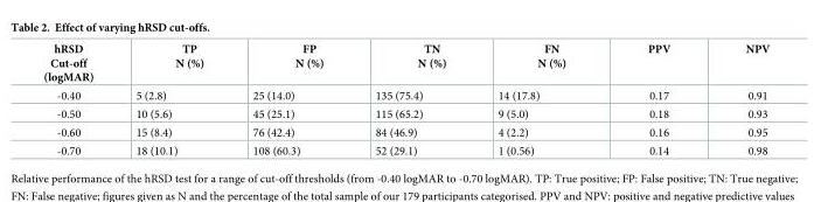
<table><thead><tr><td>hRSD Cut-off (logMAR)</td><td>TP N (%)</td><td>FP N (%)</td><td>TN N (%)</td><td>FN N (%)</td><td>PPV</td><td>NPV</td></tr></thead><tbody><tr><td>-0.40</td><td>5 (2.8)</td><td>25 (14.0)</td><td>135 (75.4)</td><td>14 (17.8)</td><td>0.17</td><td>0.91</td></tr><tr><td>-0.50</td><td>10 (5.6)</td><td>45 (25.1)</td><td>115 (65.2)</td><td>9 (5.0)</td><td>0.18</td><td>0.93</td></tr><tr><td>-0.60</td><td>15 (8.4)</td><td>76 (42.4)</td><td>84 (46.9)</td><td>4 (2.2)</td><td>0.16</td><td>0.95</td></tr><tr><td>-0.70</td><td>18 (10.1)</td><td>108 (60.3)</td><td>52 (29.1)</td><td>1 (0.56)</td><td>0.14</td><td>0.98</td></tr></tbody></table>